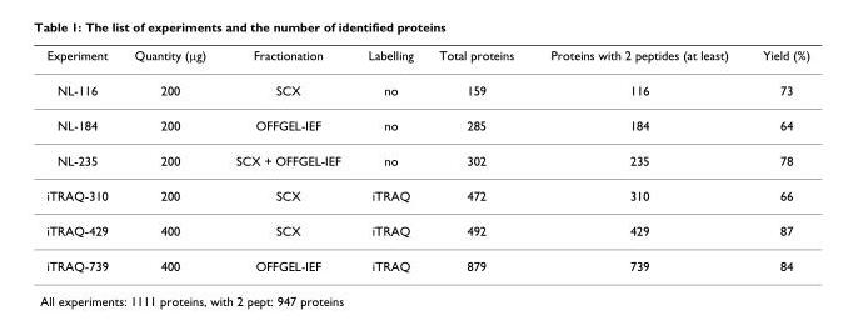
<table><thead><tr><td>Experiment</td><td>Quantity (μg)</td><td>Fractionation</td><td>Labelling</td><td>Total proteins</td><td>Proteins with 2 peptides (at least)</td><td>Yield (%)</td></tr></thead><tbody><tr><td>NL-116</td><td>200</td><td>SCX</td><td>no</td><td>159</td><td>116</td><td>73</td></tr><tr><td>NL-184</td><td>200</td><td>OFFGEL-IEF</td><td>no</td><td>285</td><td>184</td><td>64</td></tr><tr><td>NL-235</td><td>200</td><td>SCX + OFFGEL-IEF</td><td>no</td><td>302</td><td>235</td><td>78</td></tr><tr><td>iTRAQ-310</td><td>200</td><td>SCX</td><td>iTRAQ</td><td>472</td><td>310</td><td>66</td></tr><tr><td>iTRAQ-429</td><td>400</td><td>SCX</td><td>iTRAQ</td><td>492</td><td>429</td><td>87</td></tr><tr><td>iTRAQ-739</td><td>400</td><td>OFFGEL-IEF</td><td>iTRAQ</td><td>879</td><td>739</td><td>84</td></tr></tbody></table>